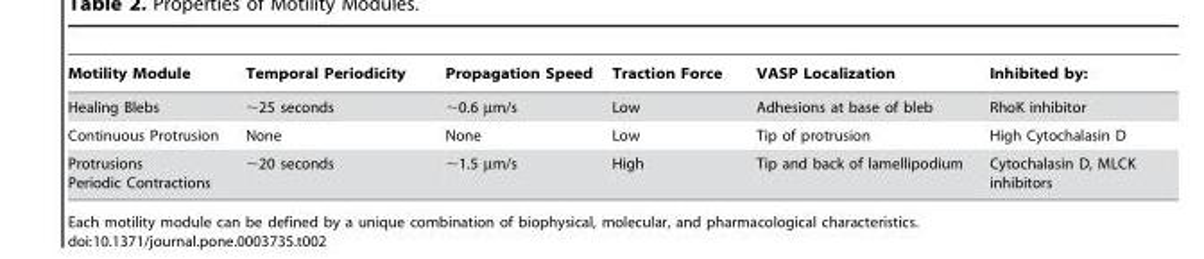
<table><thead><tr><td>Motility Module</td><td>Temporal Periodicity</td><td>Propagation Speed</td><td>Traction Force</td><td>VASP Localization</td><td>Inhibited by:</td></tr></thead><tbody><tr><td>Healing Blebs</td><td>∼25 seconds</td><td>∼0.6 µm/s</td><td>Low</td><td>Adhesions at base of bleb</td><td>RhoK inhibitor</td></tr><tr><td>Continuous Protrusion</td><td>None</td><td>None</td><td>Low</td><td>Tip of protrusion</td><td>High Cytochalasin D</td></tr><tr><td>Protrusions Periodic Contractions</td><td>∼20 seconds</td><td>∼1.5 µm/s</td><td>High</td><td>Tip and back of lamellipodium</td><td>Cytochalasin D, MLCK inhibitors</td></tr></tbody></table>